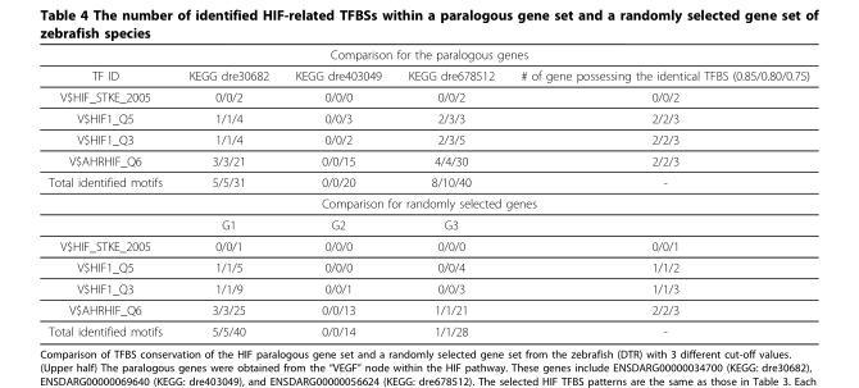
<table><thead><tr><td colspan="5">Comparison for the paralogous genes</td></tr><tr><td>TF ID</td><td>KEGG dre30682</td><td>KEGG dre403049</td><td>KEGG dre678512</td><td># of gene possessing the identical TFBS (0.85/0.80/0.75)</td></tr></thead><tbody><tr><td>V$HIF_STKE_2005</td><td>0/0/2</td><td>0/0/0</td><td>0/0/2</td><td>0/0/2</td></tr><tr><td>V$HIF1_Q5</td><td>1/1/4</td><td>0/0/3</td><td>2/3/3</td><td>2/2/3</td></tr><tr><td>V$HIF1_Q3</td><td>1/1/4</td><td>0/0/2</td><td>2/3/5</td><td>2/2/3</td></tr><tr><td>V$AHRHIF_Q6</td><td>3/3/21</td><td>0/0/15</td><td>4/4/30</td><td>2/2/3</td></tr><tr><td>Total identified motifs</td><td>5/5/31</td><td>0/0/20</td><td>8/10/40</td><td>-</td></tr><tr><td colspan="5">Comparison for randomly selected genes</td></tr><tr><td></td><td>G1</td><td>G2</td><td>G3</td><td></td></tr><tr><td>V$HIF_STKE_2005</td><td>0/0/1</td><td>0/0/0</td><td>0/0/0</td><td>0/0/1</td></tr><tr><td>V$HIF1_Q5</td><td>1/1/5</td><td>0/0/0</td><td>0/0/4</td><td>1/1/2</td></tr><tr><td>V$HIF1_Q3</td><td>1/1/9</td><td>0/0/1</td><td>0/0/3</td><td>1/1/3</td></tr><tr><td>V$AHRHIF_Q6</td><td>3/3/25</td><td>0/0/13</td><td>1/1/21</td><td>2/2/3</td></tr><tr><td>Total identified motifs</td><td>5/5/40</td><td>0/0/14</td><td>1/1/28</td><td>-</td></tr></tbody></table>